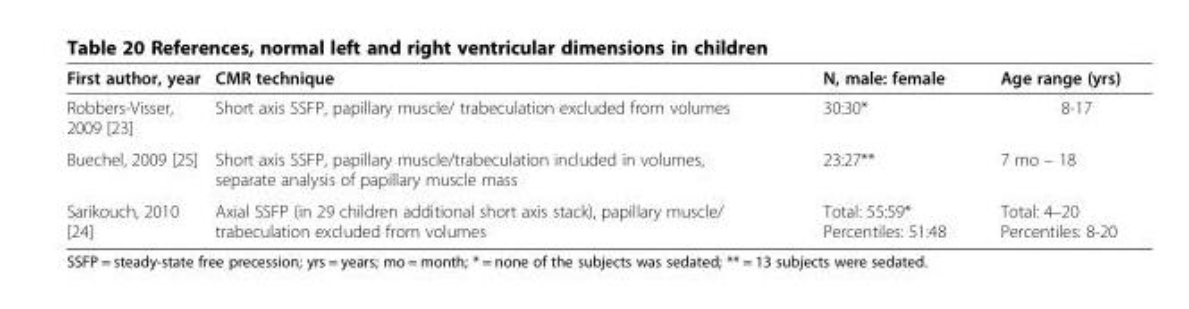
<table><thead><tr><td>First author, year</td><td>CMR technique</td><td>N, male: female</td><td>Age range (yrs)</td></tr></thead><tbody><tr><td>Robbers-Visser, 2009 [23]</td><td>Short axis SSFP, papillary muscle/ trabeculation excluded from volumes</td><td>30:30*</td><td>8-17</td></tr><tr><td>Buechel, 2009 [25]</td><td>Short axis SSFP, papillary muscle/trabeculation included in volumes, separate analysis of papillary muscle mass</td><td>23:27**</td><td>7 mo – 18</td></tr><tr><td>Sarikouch, 2010 [24]</td><td>Axial SSFP (in 29 children additional short axis stack), papillary muscle/ trabeculation excluded from volumes</td><td>Total: 55:59* Percentiles: 51:48</td><td>Total: 4–20 Percentiles: 8-20</td></tr></tbody></table>